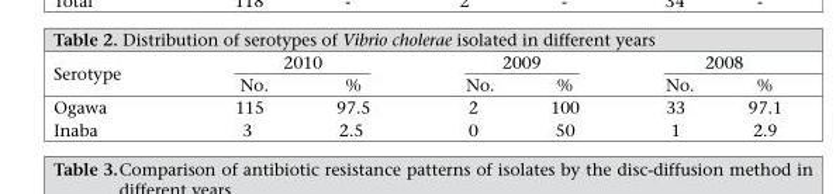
<table><thead><tr><td rowspan="2">Serotype</td><td colspan="2">2010</td><td colspan="2">2009</td><td colspan="2">2008</td></tr><tr><td>No.</td><td>%</td><td>No.</td><td>%</td><td>No.</td><td>%</td></tr></thead><tbody><tr><td>Ogawa</td><td>115</td><td>97.5</td><td>2</td><td>100</td><td>33</td><td>97.1</td></tr><tr><td>Inaba</td><td>3</td><td>2.5</td><td>0</td><td>50</td><td>1</td><td>2.9</td></tr></tbody></table>